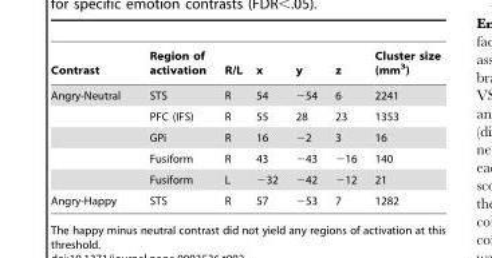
<table><thead><tr><td>Contrast</td><td>Region of activation</td><td>R/L</td><td>x</td><td>y</td><td>z</td><td>Cluster size (mm<sup>3</sup>)</td></tr></thead><tbody><tr><td rowspan="5">Angry-Neutral</td><td>STS</td><td>R</td><td>54</td><td>−54</td><td>6</td><td>2241</td></tr><tr><td>PFC (IFS)</td><td>R</td><td>55</td><td>28</td><td>23</td><td>1353</td></tr><tr><td>GPi</td><td>R</td><td>16</td><td>−2</td><td>3</td><td>16</td></tr><tr><td>Fusiform</td><td>R</td><td>43</td><td>−43</td><td>−16</td><td>140</td></tr><tr><td>Fusiform</td><td>L</td><td>−32</td><td>−42</td><td>−12</td><td>21</td></tr><tr><td>Angry-Happy</td><td>STS</td><td>R</td><td>57</td><td>−53</td><td>7</td><td>1282</td></tr></tbody></table>